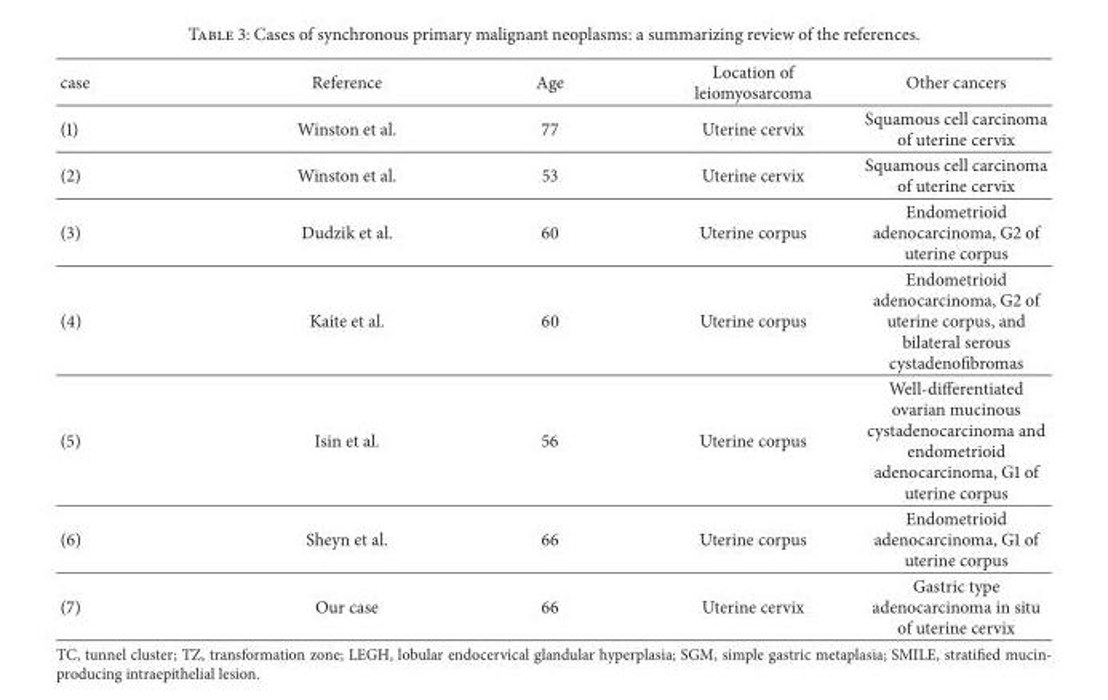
<table><thead><tr><td>case</td><td>Reference</td><td>Age</td><td>Location of leiomyosarcoma</td><td>Other cancers</td></tr></thead><tbody><tr><td>(1)</td><td>Winston et al.</td><td>77</td><td>Uterine cervix</td><td>Squamous cell carcinoma of uterine cervix</td></tr><tr><td>(2)</td><td>Winston et al.</td><td>53</td><td>Uterine cervix</td><td>Squamous cell carcinoma of uterine cervix</td></tr><tr><td>(3)</td><td>Dudzik et al.</td><td>60</td><td>Uterine corpus</td><td>Endometrioid adenocarcinoma, G2 of uterine corpus</td></tr><tr><td>(4)</td><td>Kaite et al.</td><td>60</td><td>Uterine corpus</td><td>Endometrioid adenocarcinoma, G2 of uterine corpus, and bilateral serous cystadenofibromas</td></tr><tr><td>(5)</td><td>Isin et al.</td><td>56</td><td>Uterine corpus</td><td>Well-differentiated ovarian mucinous cystadenocarcinoma and endometrioid adenocarcinoma, G1 of uterine corpus</td></tr><tr><td>(6)</td><td>Sheyn et al.</td><td>66</td><td>Uterine corpus</td><td>Endometrioid adenocarcinoma, G1 of uterine corpus</td></tr><tr><td>(7)</td><td>Our case</td><td>66</td><td>Uterine cervix</td><td>Gastric type adenocarcinoma in situ of uterine cervix</td></tr></tbody></table>